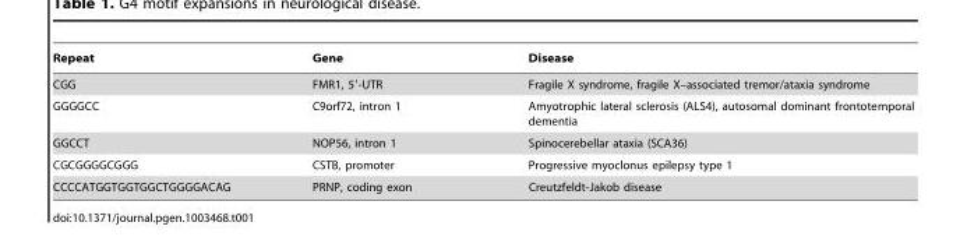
<table><thead><tr><td>Repeat</td><td>Gene</td><td>Disease</td></tr></thead><tbody><tr><td>CGG</td><td>FMR1, 5′-UTR</td><td>Fragile X syndrome, fragile X–associated tremor/ataxia syndrome</td></tr><tr><td>GGGGCC</td><td>C9orf72, intron 1</td><td>Amyotrophic lateral sclerosis (ALS4), autosomal dominant frontotemporal dementia</td></tr><tr><td>GGCCT</td><td>NOP56, intron 1</td><td>Spinocerebellar ataxia (SCA36)</td></tr><tr><td>CGCGGGGCGGG</td><td>CSTB, promoter</td><td>Progressive myoclonus epilepsy type 1</td></tr><tr><td>CCCCATGGTGGTGGCTGGGGACAG</td><td>PRNP, coding exon</td><td>Creutzfeldt-Jakob disease</td></tr></tbody></table>